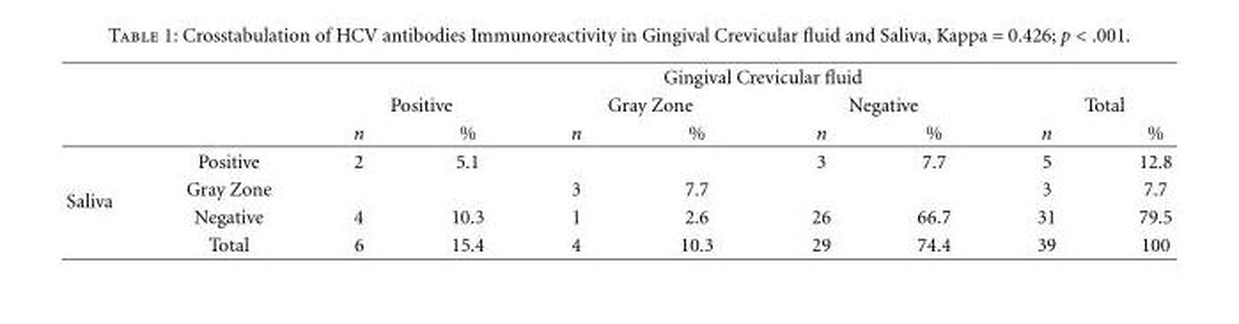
<table><thead><tr><td rowspan="3"></td><td rowspan="3"></td><td colspan="8">Gingival Crevicular fluid</td></tr><tr><td colspan="2">Positive</td><td colspan="2">Gray Zone</td><td colspan="2">Negative</td><td colspan="2">Total</td></tr><tr><td>n</td><td>%</td><td>n</td><td>%</td><td>n</td><td>%</td><td>n</td><td>%</td></tr></thead><tbody><tr><td rowspan="4">Saliva</td><td>Positive</td><td>2</td><td>5.1</td><td></td><td></td><td>3</td><td>7.7</td><td>5</td><td>12.8</td></tr><tr><td>Gray Zone</td><td></td><td></td><td>3</td><td>7.7</td><td></td><td></td><td>3</td><td>7.7</td></tr><tr><td>Negative</td><td>4</td><td>10.3</td><td>1</td><td>2.6</td><td>26</td><td>66.7</td><td>31</td><td>79.5</td></tr><tr><td>Total</td><td>6</td><td>15.4</td><td>4</td><td>10.3</td><td>29</td><td>74.4</td><td>39</td><td>100</td></tr></tbody></table>